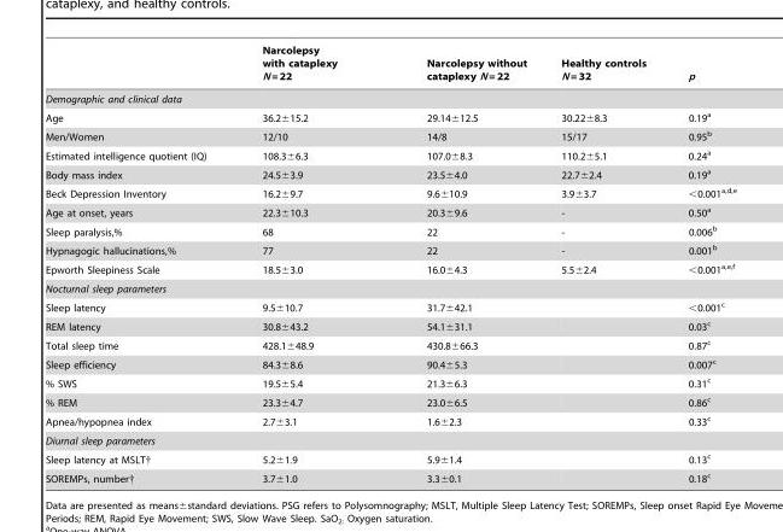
<table><thead><tr><td></td><td>Narcolepsy with cataplexy N = 22</td><td>Narcolepsy without cataplexy N = 22</td><td>Healthy controls N = 32</td><td>p</td></tr></thead><tbody><tr><td colspan="5">Demographic and clinical data</td></tr><tr><td>Age</td><td>36.2±15.2</td><td>29.14±12.5</td><td>30.22±8.3</td><td>0.19<sup>a</sup></td></tr><tr><td>Men/Women</td><td>12/10</td><td>14/8</td><td>15/17</td><td>0.95<sup>b</sup></td></tr><tr><td>Estimated intelligence quotient (IQ)</td><td>108.3±6.3</td><td>107.0±8.3</td><td>110.2±5.1</td><td>0.24<sup>a</sup></td></tr><tr><td>Body mass index</td><td>24.5±3.9</td><td>23.5±4.0</td><td>22.7±2.4</td><td>0.19<sup>a</sup></td></tr><tr><td>Beck Depression Inventory</td><td>16.2±9.7</td><td>9.6±10.9</td><td>3.9±3.7</td><td>&lt;0.001a,d,e</td></tr><tr><td>Age at onset, years</td><td>22.3±10.3</td><td>20.3±9.6</td><td>-</td><td>0.50<sup>a</sup></td></tr><tr><td>Sleep paralysis,%</td><td>68</td><td>22</td><td>-</td><td>0.006<sup>b</sup></td></tr><tr><td>Hypnagogic hallucinations,%</td><td>77</td><td>22</td><td>-</td><td>0.001<sup>b</sup></td></tr><tr><td>Epworth Sleepiness Scale</td><td>18.5±3.0</td><td>16.0±4.3</td><td>5.5±2.4</td><td>&lt;0.001a,e,f</td></tr><tr><td colspan="5">Nocturnal sleep parameters</td></tr><tr><td>Sleep latency</td><td>9.5±10.7</td><td>31.7±42.1</td><td></td><td>&lt;0.001<sup>c</sup></td></tr><tr><td>REM latency</td><td>30.8±43.2</td><td>54.1±31.1</td><td></td><td>0.03<sup>c</sup></td></tr><tr><td>Total sleep time</td><td>428.1±48.9</td><td>430.8±66.3</td><td></td><td>0.87<sup>c</sup></td></tr><tr><td>Sleep efficiency</td><td>84.3±8.6</td><td>90.4±5.3</td><td></td><td>0.007<sup>c</sup></td></tr><tr><td>% SWS</td><td>19.5±5.4</td><td>21.3±6.3</td><td></td><td>0.31<sup>c</sup></td></tr><tr><td>% REM</td><td>23.3±4.7</td><td>23.0±6.5</td><td></td><td>0.86<sup>c</sup></td></tr><tr><td>Apnea/hypopnea index</td><td>2.7±3.1</td><td>1.6±2.3</td><td></td><td>0.33<sup>c</sup></td></tr><tr><td colspan="5">Diurnal sleep parameters</td></tr><tr><td>Sleep latency at MSLT†</td><td>5.2±1.9</td><td>5.9±1.4</td><td></td><td>0.13<sup>c</sup></td></tr><tr><td>SOREMPs, number†</td><td>3.7±1.0</td><td>3.3±0.1</td><td></td><td>0.18<sup>c</sup></td></tr></tbody></table>